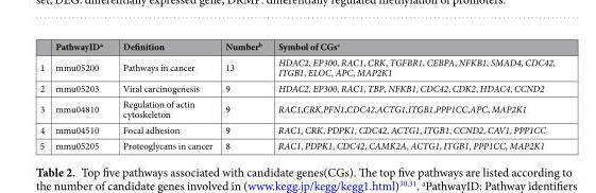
<table><thead><tr><td></td><td>PathwayID<sup>a</sup></td><td>Definition</td><td>Number<sup>b</sup></td><td>Symbol of CGs<sup>c</sup></td></tr></thead><tbody><tr><td>1</td><td>mmu05200</td><td>Pathways in cancer</td><td>13</td><td>HDAC2, EP300, RAC1, CRK, TGFBR1, CEBPA, NFKB1, SMAD4, CDC42, ITGB1, ELOC, APC, MAP2K1</td></tr><tr><td>2</td><td>mmu05203</td><td>Viral carcinogenesis</td><td>9</td><td>HDAC2, EP300, RAC1, TBP, NFKB1, CDC42, CDK2, HDAC4, CCND2</td></tr><tr><td>3</td><td>mmu04810</td><td>Regulation of actin cytoskeleton</td><td>9</td><td>RAC1,CRK,PFN1,CDC42,ACTG1,ITGB1,PPP1CC,APC, MAP2K1</td></tr><tr><td>4</td><td>mmu04510</td><td>Focal adhesion</td><td>9</td><td>RAC1, CRK, PDPK1, CDC42, ACTG1, ITGB1, CCND2, CAV1, PPP1CC</td></tr><tr><td>5</td><td>mmu05205</td><td>Proteoglycans in cancer</td><td>8</td><td>RAC1, PDPK1, CDC42, CAMK2A, ACTG1, ITGB1, PPP1CC, MAP2K1</td></tr></tbody></table>